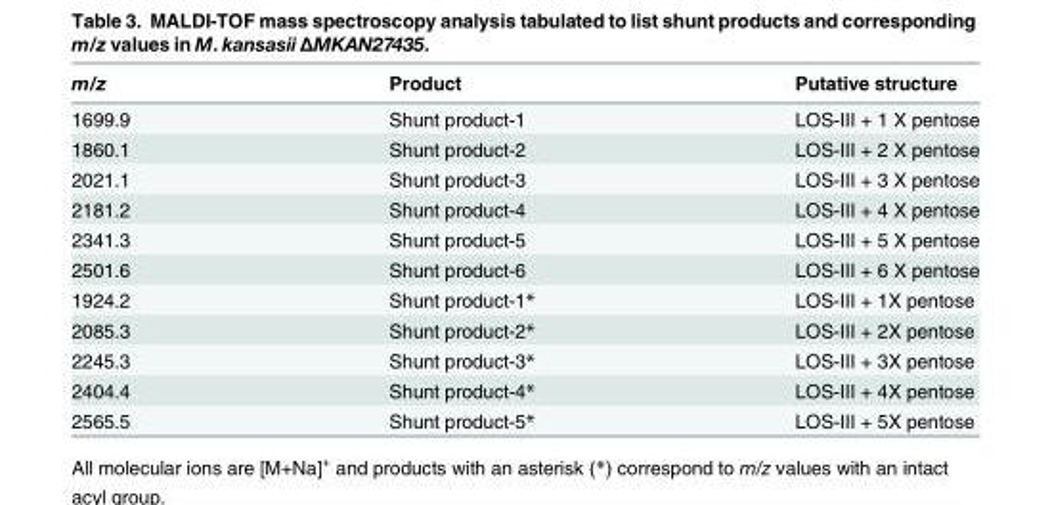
<table><thead><tr><td>m/z</td><td>Product</td><td>Putative structure</td></tr></thead><tbody><tr><td>1699.9</td><td>Shunt product-1</td><td>LOS-III + 1 X pentose</td></tr><tr><td>1860.1</td><td>Shunt product-2</td><td>LOS-III + 2 X pentose</td></tr><tr><td>2021.1</td><td>Shunt product-3</td><td>LOS-III + 3 X pentose</td></tr><tr><td>2181.2</td><td>Shunt product-4</td><td>LOS-III + 4 X pentose</td></tr><tr><td>2341.3</td><td>Shunt product-5</td><td>LOS-III + 5 X pentose</td></tr><tr><td>2501.6</td><td>Shunt product-6</td><td>LOS-III + 6 X pentose</td></tr><tr><td>1924.2</td><td>Shunt product-1*</td><td>LOS-III + 1X pentose</td></tr><tr><td>2085.3</td><td>Shunt product-2*</td><td>LOS-III + 2X pentose</td></tr><tr><td>2245.3</td><td>Shunt product-3*</td><td>LOS-III + 3X pentose</td></tr><tr><td>2404.4</td><td>Shunt product-4*</td><td>LOS-III + 4X pentose</td></tr><tr><td>2565.5</td><td>Shunt product-5*</td><td>LOS-III + 5X pentose</td></tr></tbody></table>